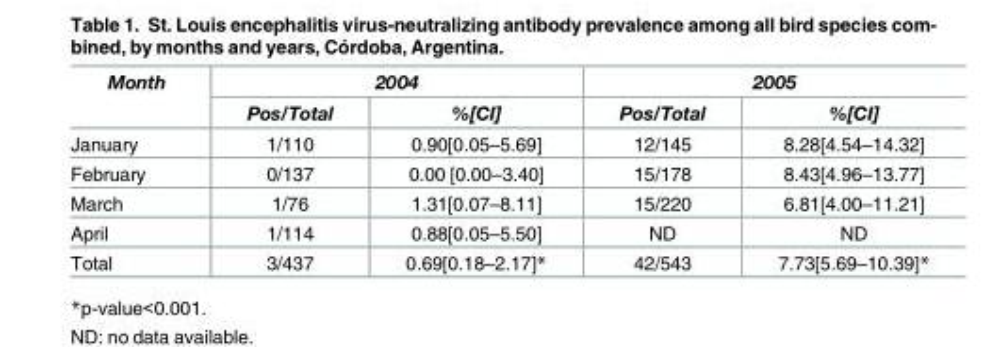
<table><thead><tr><td rowspan="2">Month</td><td colspan="2">2004</td><td colspan="2">2005</td></tr><tr><td>Pos/Total</td><td>%[CI]</td><td>Pos/Total</td><td>%[CI]</td></tr></thead><tbody><tr><td>January</td><td>1/110</td><td>0.90[0.05–5.69]</td><td>12/145</td><td>8.28[4.54–14.32]</td></tr><tr><td>February</td><td>0/137</td><td>0.00 [0.00–3.40]</td><td>15/178</td><td>8.43[4.96–13.77]</td></tr><tr><td>March</td><td>1/76</td><td>1.31[0.07–8.11]</td><td>15/220</td><td>6.81[4.00–11.21]</td></tr><tr><td>April</td><td>1/114</td><td>0.88[0.05–5.50]</td><td>ND</td><td>ND</td></tr><tr><td>Total</td><td>3/437</td><td>0.69[0.18–2.17]*</td><td>42/543</td><td>7.73[5.69–10.39]*</td></tr></tbody></table>